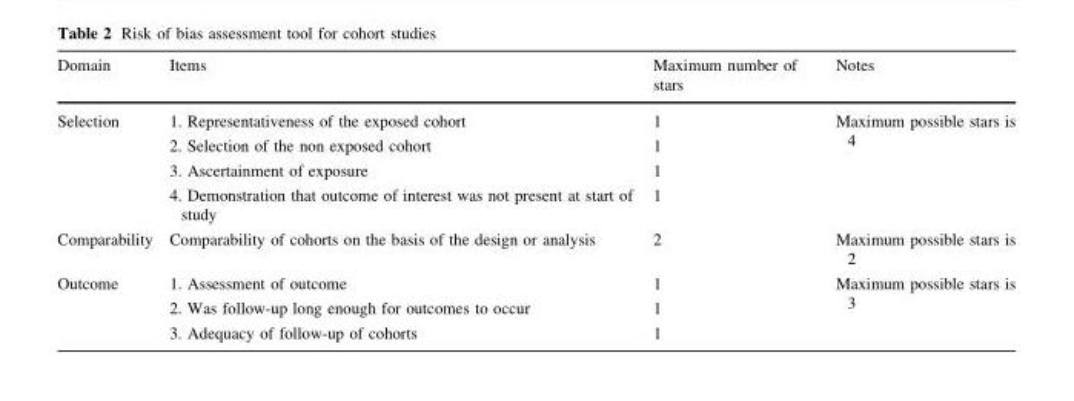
<table><thead><tr><td>Domain</td><td>Items</td><td>Maximum number of stars</td><td>Notes</td></tr></thead><tbody><tr><td rowspan="4">Selection</td><td>1. Representativeness of the exposed cohort</td><td>1</td><td rowspan="4">Maximum possible stars is 4</td></tr><tr><td>2. Selection of the non exposed cohort</td><td>1</td></tr><tr><td>3. Ascertainment of exposure</td><td>1</td></tr><tr><td>4. Demonstration that outcome of interest was not present at start of study</td><td>1</td></tr><tr><td>Comparability</td><td>Comparability of cohorts on the basis of the design or analysis</td><td>2</td><td>Maximum possible stars is 2</td></tr><tr><td rowspan="3">Outcome</td><td>1. Assessment of outcome</td><td>1</td><td rowspan="3">Maximum possible stars is 3</td></tr><tr><td>2. Was follow-up long enough for outcomes to occur</td><td>1</td></tr><tr><td>3. Adequacy of follow-up of cohorts</td><td>1</td></tr></tbody></table>